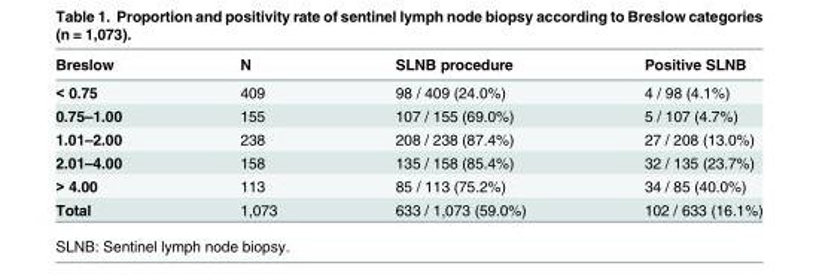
<table><thead><tr><td>Breslow</td><td>N</td><td>SLNB procedure</td><td>Positive SLNB</td></tr></thead><tbody><tr><td>&lt; 0.75</td><td>409</td><td>98 / 409 (24.0%)</td><td>4 / 98 (4.1%)</td></tr><tr><td>0.75–1.00</td><td>155</td><td>107 / 155 (69.0%)</td><td>5 / 107 (4.7%)</td></tr><tr><td>1.01–2.00</td><td>238</td><td>208 / 238 (87.4%)</td><td>27 / 208 (13.0%)</td></tr><tr><td>2.01–4.00</td><td>158</td><td>135 / 158 (85.4%)</td><td>32 / 135 (23.7%)</td></tr><tr><td>&gt; 4.00</td><td>113</td><td>85 / 113 (75.2%)</td><td>34 / 85 (40.0%)</td></tr><tr><td>Total</td><td>1,073</td><td>633 / 1,073 (59.0%)</td><td>102 / 633 (16.1%)</td></tr></tbody></table>